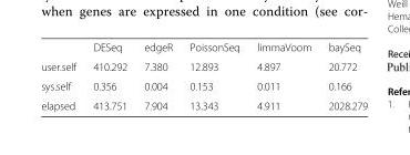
<table><thead><tr><td></td><td>DESeq</td><td>edgeR</td><td>PoissonSeq</td><td>limmaVoom</td><td>baySeq</td></tr></thead><tbody><tr><td>user.self</td><td>410.292</td><td>7.380</td><td>12.893</td><td>4.897</td><td>20.772</td></tr><tr><td>sys.self</td><td>0.356</td><td>0.004</td><td>0.153</td><td>0.011</td><td>0.166</td></tr><tr><td>elapsed</td><td>413.751</td><td>7.904</td><td>13.343</td><td>4.911</td><td>2028.279</td></tr></tbody></table>